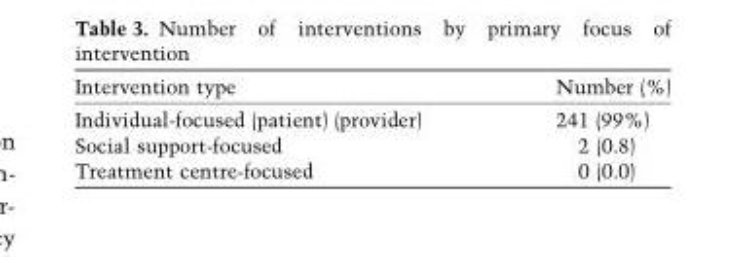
<table><thead><tr><td>Intervention type</td><td>Number (%)</td></tr></thead><tbody><tr><td>Individual-focused (patient) (provider)</td><td>241 (99%)</td></tr><tr><td>Social support-focused</td><td>2 (0.8)</td></tr><tr><td>Treatment centre-focused</td><td>0 (0.0)</td></tr></tbody></table>